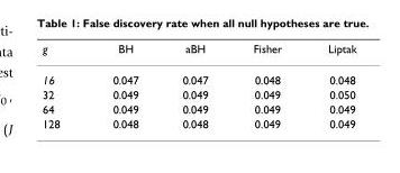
<table><thead><tr><td>g</td><td>BH</td><td>aBH</td><td>Fisher</td><td>Liptak</td></tr></thead><tbody><tr><td>16</td><td>0.047</td><td>0.047</td><td>0.048</td><td>0.048</td></tr><tr><td>32</td><td>0.049</td><td>0.049</td><td>0.049</td><td>0.050</td></tr><tr><td>64</td><td>0.049</td><td>0.049</td><td>0.049</td><td>0.049</td></tr><tr><td>128</td><td>0.048</td><td>0.048</td><td>0.049</td><td>0.049</td></tr></tbody></table>